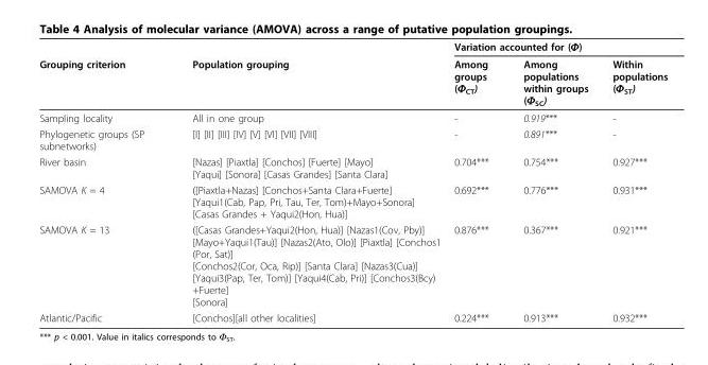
<table><thead><tr><td rowspan="2">Grouping criterion</td><td rowspan="2">Population grouping</td><td colspan="3">Variation accounted for (Φ)</td></tr><tr><td>Among groups (Φ<sub>CT</sub>)</td><td>Among populations within groups (Φ<sub>SC</sub>)</td><td>Within populations (Φ<sub>ST</sub>)</td></tr></thead><tbody><tr><td>Sampling locality</td><td>All in one group</td><td>-</td><td>0.919***</td><td>-</td></tr><tr><td>Phylogenetic groups (SP subnetworks)</td><td>[I] [II] [III] [IV] [V] [VI] [VII] [VIII]</td><td>-</td><td>0.891***</td><td>-</td></tr><tr><td>River basin</td><td>[Nazas] [Piaxtla] [Conchos] [Fuerte] [Mayo] [Yaqui] [Sonora] [Casas Grandes] [Santa Clara]</td><td>0.704***</td><td>0.754***</td><td>0.927***</td></tr><tr><td>SAMOVA K = 4</td><td>([Piaxtla+Nazas] [Conchos+Santa Clara+Fuerte] [Yaqui1(Cab, Pap, Pri, Tau, Ter, Tom)+Mayo+Sonora] [Casas Grandes + Yaqui2(Hon, Hua)]</td><td>0.692***</td><td>0.776***</td><td>0.931***</td></tr><tr><td>SAMOVA K = 13</td><td>([Casas Grandes+Yaqui2(Hon, Hua)] [Nazas1(Cov, Pby)] [Mayo+Yaqui1(Tau)] [Nazas2(Ato, Olo)] [Piaxtla] [Conchos1 (Por, Sat)] [Conchos2(Cor, Oca, Rip)] [Santa Clara] [Nazas3(Cua)] [Yaqui3(Pap, Ter, Tom)] [Yaqui4(Cab, Pri)] [Conchos3(Bcy) +Fuerte] [Sonora]</td><td>0.876***</td><td>0.367***</td><td>0.921***</td></tr><tr><td>Atlantic/Pacific</td><td>[Conchos][all other localities]</td><td>0.224***</td><td>0.913***</td><td>0.932***</td></tr></tbody></table>